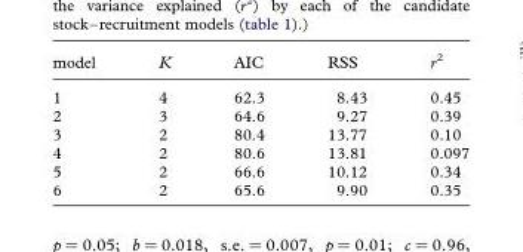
<table><thead><tr><td>model</td><td>K</td><td>AIC</td><td>RSS</td><td>r<sup>2</sup></td></tr></thead><tbody><tr><td>1</td><td>4</td><td>62.3</td><td>8.43</td><td>0.45</td></tr><tr><td>2</td><td>3</td><td>64.6</td><td>9.27</td><td>0.39</td></tr><tr><td>3</td><td>2</td><td>80.4</td><td>13.77</td><td>0.10</td></tr><tr><td>4</td><td>2</td><td>80.6</td><td>13.81</td><td>0.097</td></tr><tr><td>5</td><td>2</td><td>66.6</td><td>10.12</td><td>0.34</td></tr><tr><td>6</td><td>2</td><td>65.6</td><td>9.90</td><td>0.35</td></tr></tbody></table>